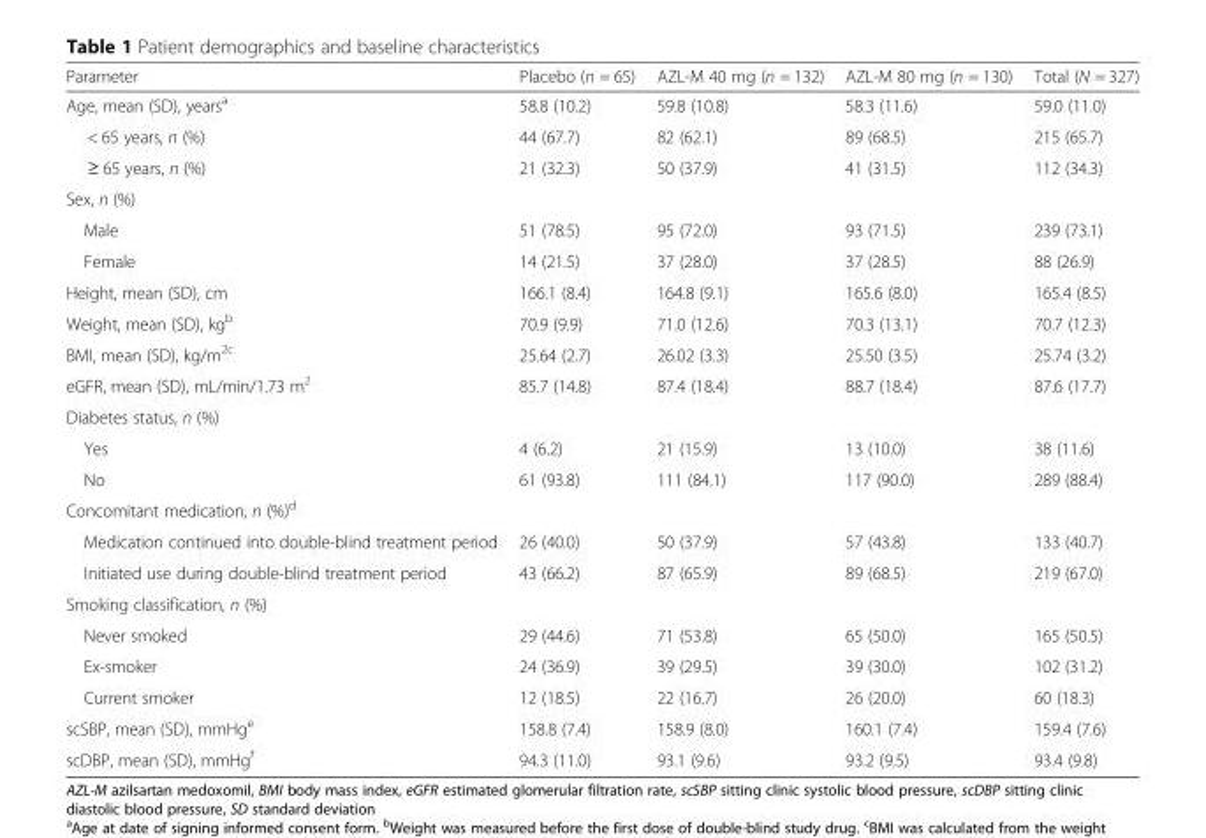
<table><thead><tr><td>Parameter</td><td>Placebo (n = 65)</td><td>AZL-M 40 mg (n = 132)</td><td>AZL-M 80 mg (n = 130)</td><td>Total (N = 327)</td></tr></thead><tbody><tr><td>Age, mean (SD), years<sup>a</sup></td><td>58.8 (10.2)</td><td>59.8 (10.8)</td><td>58.3 (11.6)</td><td>59.0 (11.0)</td></tr><tr><td>&lt; 65 years, n (%)</td><td>44 (67.7)</td><td>82 (62.1)</td><td>89 (68.5)</td><td>215 (65.7)</td></tr><tr><td>≥ 65 years, n (%)</td><td>21 (32.3)</td><td>50 (37.9)</td><td>41 (31.5)</td><td>112 (34.3)</td></tr><tr><td colspan="5">Sex, n (%)</td></tr><tr><td>Male</td><td>51 (78.5)</td><td>95 (72.0)</td><td>93 (71.5)</td><td>239 (73.1)</td></tr><tr><td>Female</td><td>14 (21.5)</td><td>37 (28.0)</td><td>37 (28.5)</td><td>88 (26.9)</td></tr><tr><td>Height, mean (SD), cm</td><td>166.1 (8.4)</td><td>164.8 (9.1)</td><td>165.6 (8.0)</td><td>165.4 (8.5)</td></tr><tr><td>Weight, mean (SD), kg<sup>b</sup></td><td>70.9 (9.9)</td><td>71.0 (12.6)</td><td>70.3 (13.1)</td><td>70.7 (12.3)</td></tr><tr><td>BMI, mean (SD), kg/m<sup>2c</sup></td><td>25.64 (2.7)</td><td>26.02 (3.3)</td><td>25.50 (3.5)</td><td>25.74 (3.2)</td></tr><tr><td>eGFR, mean (SD), mL/min/1.73 m<sup>2</sup></td><td>85.7 (14.8)</td><td>87.4 (18.4)</td><td>88.7 (18.4)</td><td>87.6 (17.7)</td></tr><tr><td colspan="5">Diabetes status, n (%)</td></tr><tr><td>Yes</td><td>4 (6.2)</td><td>21 (15.9)</td><td>13 (10.0)</td><td>38 (11.6)</td></tr><tr><td>No</td><td>61 (93.8)</td><td>111 (84.1)</td><td>117 (90.0)</td><td>289 (88.4)</td></tr><tr><td colspan="5">Concomitant medication, n (%)<sup>d</sup></td></tr><tr><td>Medication continued into double-blind treatment period</td><td>26 (40.0)</td><td>50 (37.9)</td><td>57 (43.8)</td><td>133 (40.7)</td></tr><tr><td>Initiated use during double-blind treatment period</td><td>43 (66.2)</td><td>87 (65.9)</td><td>89 (68.5)</td><td>219 (67.0)</td></tr><tr><td colspan="5">Smoking classification, n (%)</td></tr><tr><td>Never smoked</td><td>29 (44.6)</td><td>71 (53.8)</td><td>65 (50.0)</td><td>165 (50.5)</td></tr><tr><td>Ex-smoker</td><td>24 (36.9)</td><td>39 (29.5)</td><td>39 (30.0)</td><td>102 (31.2)</td></tr><tr><td>Current smoker</td><td>12 (18.5)</td><td>22 (16.7)</td><td>26 (20.0)</td><td>60 (18.3)</td></tr><tr><td>scSBP, mean (SD), mmHg<sup>e</sup></td><td>158.8 (7.4)</td><td>158.9 (8.0)</td><td>160.1 (7.4)</td><td>159.4 (7.6)</td></tr><tr><td>scDBP, mean (SD), mmHg<sup>f</sup></td><td>94.3 (11.0)</td><td>93.1 (9.6)</td><td>93.2 (9.5)</td><td>93.4 (9.8)</td></tr></tbody></table>